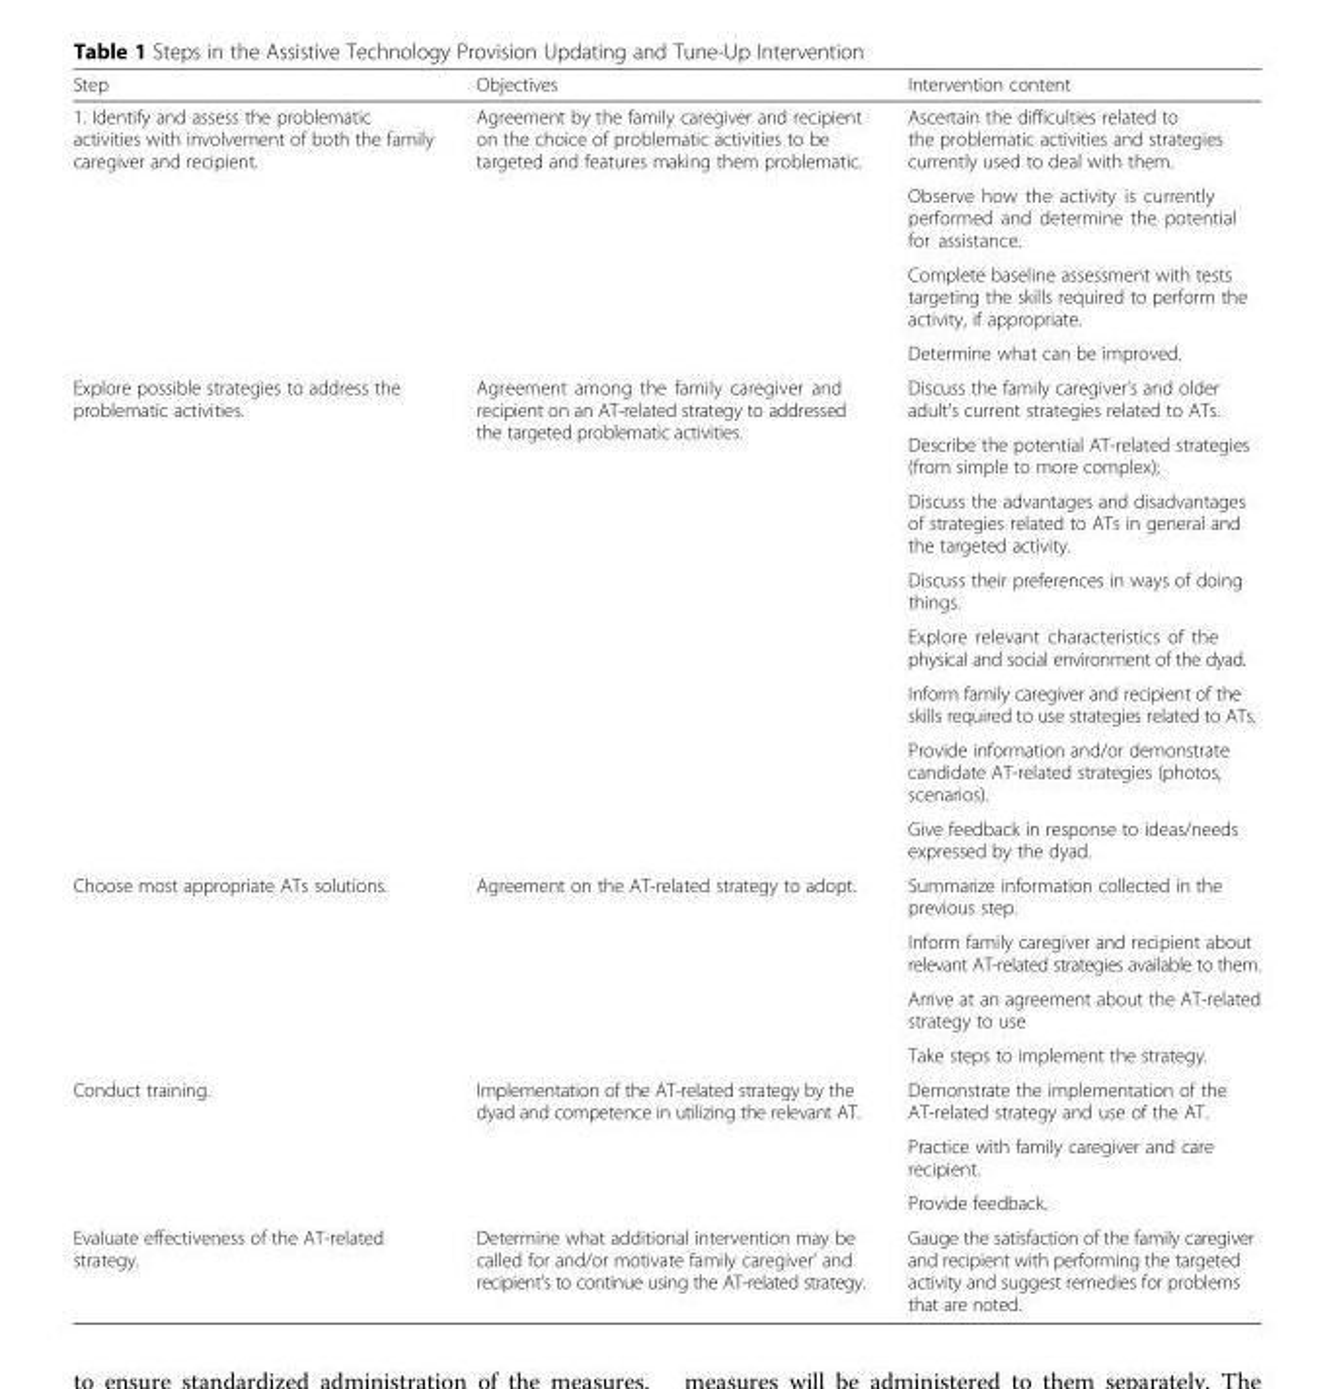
<table><thead><tr><td>Step</td><td>Objectives</td><td>Intervention content</td></tr></thead><tbody><tr><td rowspan="4">1. Identify and assess the problematic activities with involvement of both the family caregiver and recipient.</td><td rowspan="4">Agreement by the family caregiver and recipient on the choice of problematic activities to be targeted and features making them problematic.</td><td>Ascertain the difficulties related to the problematic activities and strategies currently used to deal with them.</td></tr><tr><td>Observe how the activity is currently performed and determine the potential for assistance.</td></tr><tr><td>Complete baseline assessment with tests targeting the skills required to perform the activity, if appropriate.</td></tr><tr><td>Determine what can be improved.</td></tr><tr><td rowspan="8">Explore possible strategies to address the problematic activities.</td><td rowspan="8">Agreement among the family caregiver and recipient on an AT-related strategy to addressed the targeted problematic activities.</td><td>Discuss the family caregiver’s and older adult’s current strategies related to ATs.</td></tr><tr><td>Describe the potential AT-related strategies (from simple to more complex);</td></tr><tr><td>Discuss the advantages and disadvantages of strategies related to ATs in general and the targeted activity.</td></tr><tr><td>Discuss their preferences in ways of doing things.</td></tr><tr><td>Explore relevant characteristics of the physical and social environment of the dyad.</td></tr><tr><td>Inform family caregiver and recipient of the skills required to use strategies related to ATs.</td></tr><tr><td>Provide information and/or demonstrate candidate AT-related strategies (photos, scenarios).</td></tr><tr><td>Give feedback in response to ideas/needs expressed by the dyad.</td></tr><tr><td rowspan="4">Choose most appropriate ATs solutions.</td><td rowspan="4">Agreement on the AT-related strategy to adopt.</td><td>Summarize information collected in the previous step.</td></tr><tr><td>Inform family caregiver and recipient about relevant AT-related strategies available to them.</td></tr><tr><td>Arrive at an agreement about the AT-related strategy to use</td></tr><tr><td>Take steps to implement the strategy.</td></tr><tr><td rowspan="3">Conduct training.</td><td rowspan="3">Implementation of the AT-related strategy by the dyad and competence in utilizing the relevant AT.</td><td>Demonstrate the implementation of the AT-related strategy and use of the AT.</td></tr><tr><td>Practice with family caregiver and care recipient.</td></tr><tr><td>Provide feedback.</td></tr><tr><td>Evaluate effectiveness of the AT-related strategy.</td><td>Determine what additional intervention may be called for and/or motivate family caregiver’ and recipient’s to continue using the AT-related strategy.</td><td>Gauge the satisfaction of the family caregiver and recipient with performing the targeted activity and suggest remedies for problems that are noted.</td></tr></tbody></table>